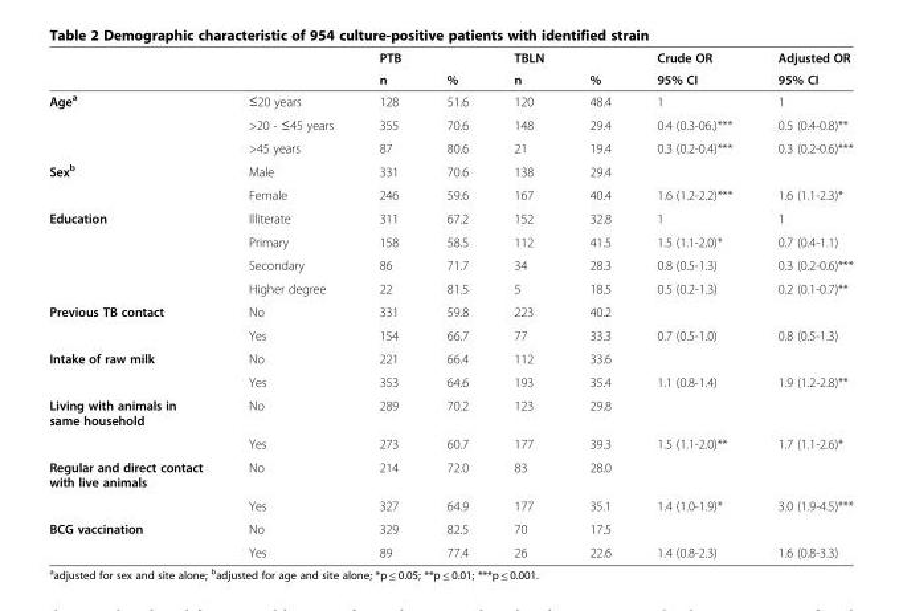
<table><thead><tr><td rowspan="2"></td><td rowspan="2"></td><td rowspan="2">PTB n</td><td rowspan="2">%</td><td rowspan="2">TBLN n</td><td rowspan="2">%</td><td rowspan="2">Crude OR 95% CI</td><td rowspan="2">Adjusted OR 95% CI</td></tr><tr></tr></thead><tbody><tr><td rowspan="3">Age<sup>a</sup></td><td>≤20 years</td><td>128</td><td>51.6</td><td>120</td><td>48.4</td><td>1</td><td>1</td></tr><tr><td>&gt;20 - ≤45 years</td><td>355</td><td>70.6</td><td>148</td><td>29.4</td><td>0.4 (0.3-06.)***</td><td>0.5 (0.4-0.8)**</td></tr><tr><td>&gt;45 years</td><td>87</td><td>80.6</td><td>21</td><td>19.4</td><td>0.3 (0.2-0.4)***</td><td>0.3 (0.2-0.6)***</td></tr><tr><td rowspan="2">Sex<sup>b</sup></td><td>Male</td><td>331</td><td>70.6</td><td>138</td><td>29.4</td><td></td><td></td></tr><tr><td>Female</td><td>246</td><td>59.6</td><td>167</td><td>40.4</td><td>1.6 (1.2-2.2)***</td><td>1.6 (1.1-2.3)*</td></tr><tr><td rowspan="4">Education</td><td>Illiterate</td><td>311</td><td>67.2</td><td>152</td><td>32.8</td><td>1</td><td>1</td></tr><tr><td>Primary</td><td>158</td><td>58.5</td><td>112</td><td>41.5</td><td>1.5 (1.1-2.0)*</td><td>0.7 (0.4-1.1)</td></tr><tr><td>Secondary</td><td>86</td><td>71.7</td><td>34</td><td>28.3</td><td>0.8 (0.5-1.3)</td><td>0.3 (0.2-0.6)***</td></tr><tr><td>Higher degree</td><td>22</td><td>81.5</td><td>5</td><td>18.5</td><td>0.5 (0.2-1.3)</td><td>0.2 (0.1-0.7)**</td></tr><tr><td rowspan="2">Previous TB contact</td><td>No</td><td>331</td><td>59.8</td><td>223</td><td>40.2</td><td></td><td></td></tr><tr><td>Yes</td><td>154</td><td>66.7</td><td>77</td><td>33.3</td><td>0.7 (0.5-1.0)</td><td>0.8 (0.5-1.3)</td></tr><tr><td rowspan="2">Intake of raw milk</td><td>No</td><td>221</td><td>66.4</td><td>112</td><td>33.6</td><td></td><td></td></tr><tr><td>Yes</td><td>353</td><td>64.6</td><td>193</td><td>35.4</td><td>1.1 (0.8-1.4)</td><td>1.9 (1.2-2.8)**</td></tr><tr><td rowspan="2">Living with animals in same household</td><td>No</td><td>289</td><td>70.2</td><td>123</td><td>29.8</td><td></td><td></td></tr><tr><td>Yes</td><td>273</td><td>60.7</td><td>177</td><td>39.3</td><td>1.5 (1.1-2.0)**</td><td>1.7 (1.1-2.6)*</td></tr><tr><td rowspan="2">Regular and direct contact with live animals</td><td>No</td><td>214</td><td>72.0</td><td>83</td><td>28.0</td><td></td><td></td></tr><tr><td>Yes</td><td>327</td><td>64.9</td><td>177</td><td>35.1</td><td>1.4 (1.0-1.9)*</td><td>3.0 (1.9-4.5)***</td></tr><tr><td rowspan="2">BCG vaccination</td><td>No</td><td>329</td><td>82.5</td><td>70</td><td>17.5</td><td></td><td></td></tr><tr><td>Yes</td><td>89</td><td>77.4</td><td>26</td><td>22.6</td><td>1.4 (0.8-2.3)</td><td>1.6 (0.8-3.3)</td></tr></tbody></table>